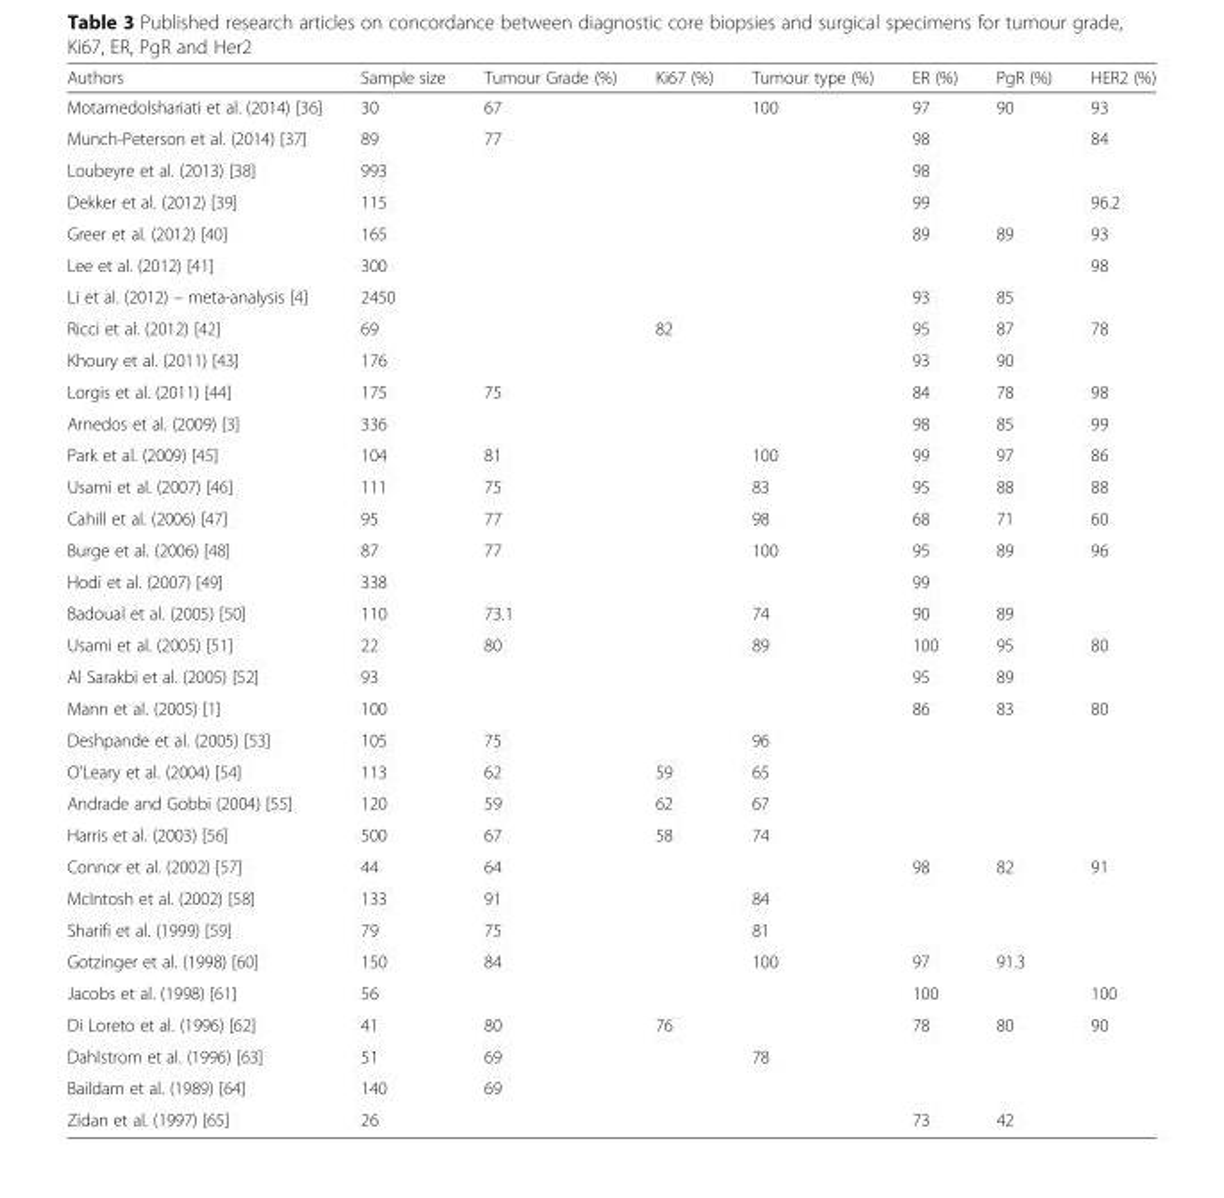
<table><thead><tr><td>Authors</td><td>Sample size</td><td>Tumour Grade (%)</td><td>Ki67 (%)</td><td>Tumour type (%)</td><td>ER (%)</td><td>PgR (%)</td><td>HER2 (%)</td></tr></thead><tbody><tr><td>Motamedolshariati et al. (2014) [36]</td><td>30</td><td>67</td><td></td><td>100</td><td>97</td><td>90</td><td>93</td></tr><tr><td>Munch-Peterson et al. (2014) [37]</td><td>89</td><td>77</td><td></td><td></td><td>98</td><td></td><td>84</td></tr><tr><td>Loubeyre et al. (2013) [38]</td><td>993</td><td></td><td></td><td></td><td>98</td><td></td><td></td></tr><tr><td>Dekker et al. (2012) [39]</td><td>115</td><td></td><td></td><td></td><td>99</td><td></td><td>96.2</td></tr><tr><td>Greer et al. (2012) [40]</td><td>165</td><td></td><td></td><td></td><td>89</td><td>89</td><td>93</td></tr><tr><td>Lee et al. (2012) [41]</td><td>300</td><td></td><td></td><td></td><td></td><td></td><td>98</td></tr><tr><td>Li et al. (2012) – meta-analysis [4]</td><td>2450</td><td></td><td></td><td></td><td>93</td><td>85</td><td></td></tr><tr><td>Ricci et al. (2012) [42]</td><td>69</td><td></td><td>82</td><td></td><td>95</td><td>87</td><td>78</td></tr><tr><td>Khoury et al. (2011) [43]</td><td>176</td><td></td><td></td><td></td><td>93</td><td>90</td><td></td></tr><tr><td>Lorgis et al. (2011) [44]</td><td>175</td><td>75</td><td></td><td></td><td>84</td><td>78</td><td>98</td></tr><tr><td>Arnedos et al. (2009) [3]</td><td>336</td><td></td><td></td><td></td><td>98</td><td>85</td><td>99</td></tr><tr><td>Park et al. (2009) [45]</td><td>104</td><td>81</td><td></td><td>100</td><td>99</td><td>97</td><td>86</td></tr><tr><td>Usami et al. (2007) [46]</td><td>111</td><td>75</td><td></td><td>83</td><td>95</td><td>88</td><td>88</td></tr><tr><td>Cahill et al. (2006) [47]</td><td>95</td><td>77</td><td></td><td>98</td><td>68</td><td>71</td><td>60</td></tr><tr><td>Burge et al. (2006) [48]</td><td>87</td><td>77</td><td></td><td>100</td><td>95</td><td>89</td><td>96</td></tr><tr><td>Hodi et al. (2007) [49]</td><td>338</td><td></td><td></td><td></td><td>99</td><td></td><td></td></tr><tr><td>Badoual et al. (2005) [50]</td><td>110</td><td>73.1</td><td></td><td>74</td><td>90</td><td>89</td><td></td></tr><tr><td>Usami et al. (2005) [51]</td><td>22</td><td>80</td><td></td><td>89</td><td>100</td><td>95</td><td>80</td></tr><tr><td>Al Sarakbi et al. (2005) [52]</td><td>93</td><td></td><td></td><td></td><td>95</td><td>89</td><td></td></tr><tr><td>Mann et al. (2005) [1]</td><td>100</td><td></td><td></td><td></td><td>86</td><td>83</td><td>80</td></tr><tr><td>Deshpande et al. (2005) [53]</td><td>105</td><td>75</td><td></td><td>96</td><td></td><td></td><td></td></tr><tr><td>O&#x27;Leary et al. (2004) [54]</td><td>113</td><td>62</td><td>59</td><td>65</td><td></td><td></td><td></td></tr><tr><td>Andrade and Gobbi (2004) [55]</td><td>120</td><td>59</td><td>62</td><td>67</td><td></td><td></td><td></td></tr><tr><td>Harris et al. (2003) [56]</td><td>500</td><td>67</td><td>58</td><td>74</td><td></td><td></td><td></td></tr><tr><td>Connor et al. (2002) [57]</td><td>44</td><td>64</td><td></td><td></td><td>98</td><td>82</td><td>91</td></tr><tr><td>McIntosh et al. (2002) [58]</td><td>133</td><td>91</td><td></td><td>84</td><td></td><td></td><td></td></tr><tr><td>Sharifi et al. (1999) [59]</td><td>79</td><td>75</td><td></td><td>81</td><td></td><td></td><td></td></tr><tr><td>Gotzinger et al. (1998) [60]</td><td>150</td><td>84</td><td></td><td>100</td><td>97</td><td>91.3</td><td></td></tr><tr><td>Jacobs et al. (1998) [61]</td><td>56</td><td></td><td></td><td></td><td>100</td><td></td><td>100</td></tr><tr><td>Di Loreto et al. (1996) [62]</td><td>41</td><td>80</td><td>76</td><td></td><td>78</td><td>80</td><td>90</td></tr><tr><td>Dahlstrom et al. (1996) [63]</td><td>51</td><td>69</td><td></td><td>78</td><td></td><td></td><td></td></tr><tr><td>Baildam et al. (1989) [64]</td><td>140</td><td>69</td><td></td><td></td><td></td><td></td><td></td></tr><tr><td>Zidan et al. (1997) [65]</td><td>26</td><td></td><td></td><td></td><td>73</td><td>42</td><td></td></tr></tbody></table>